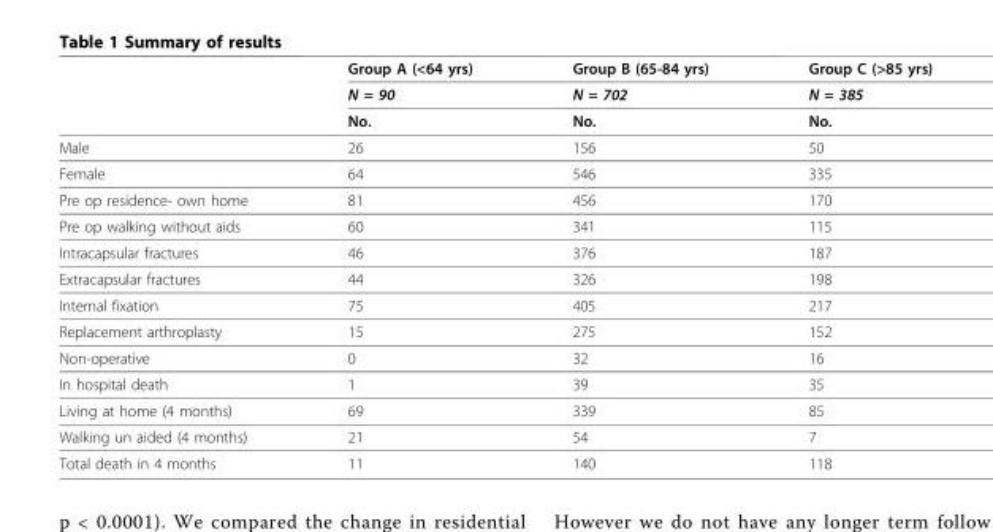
<table><thead><tr><td rowspan="3"></td><td rowspan="3">Group A (&lt;64 yrs) N = 90 No.</td><td rowspan="3">Group B (65-84 yrs) N = 702 No.</td><td rowspan="3">Group C (&gt;85 yrs) N = 385 No.</td></tr><tr></tr><tr></tr></thead><tbody><tr><td>Male</td><td>26</td><td>156</td><td>50</td></tr><tr><td>Female</td><td>64</td><td>546</td><td>335</td></tr><tr><td>Pre op residence- own home</td><td>81</td><td>456</td><td>170</td></tr><tr><td>Pre op walking without aids</td><td>60</td><td>341</td><td>115</td></tr><tr><td>Intracapsular fractures</td><td>46</td><td>376</td><td>187</td></tr><tr><td>Extracapsular fractures</td><td>44</td><td>326</td><td>198</td></tr><tr><td>Internal fixation</td><td>75</td><td>405</td><td>217</td></tr><tr><td>Replacement arthroplasty</td><td>15</td><td>275</td><td>152</td></tr><tr><td>Non-operative</td><td>0</td><td>32</td><td>16</td></tr><tr><td>In hospital death</td><td>1</td><td>39</td><td>35</td></tr><tr><td>Living at home (4 months)</td><td>69</td><td>339</td><td>85</td></tr><tr><td>Walking un aided (4 months)</td><td>21</td><td>54</td><td>7</td></tr><tr><td>Total death in 4 months</td><td>11</td><td>140</td><td>118</td></tr></tbody></table>